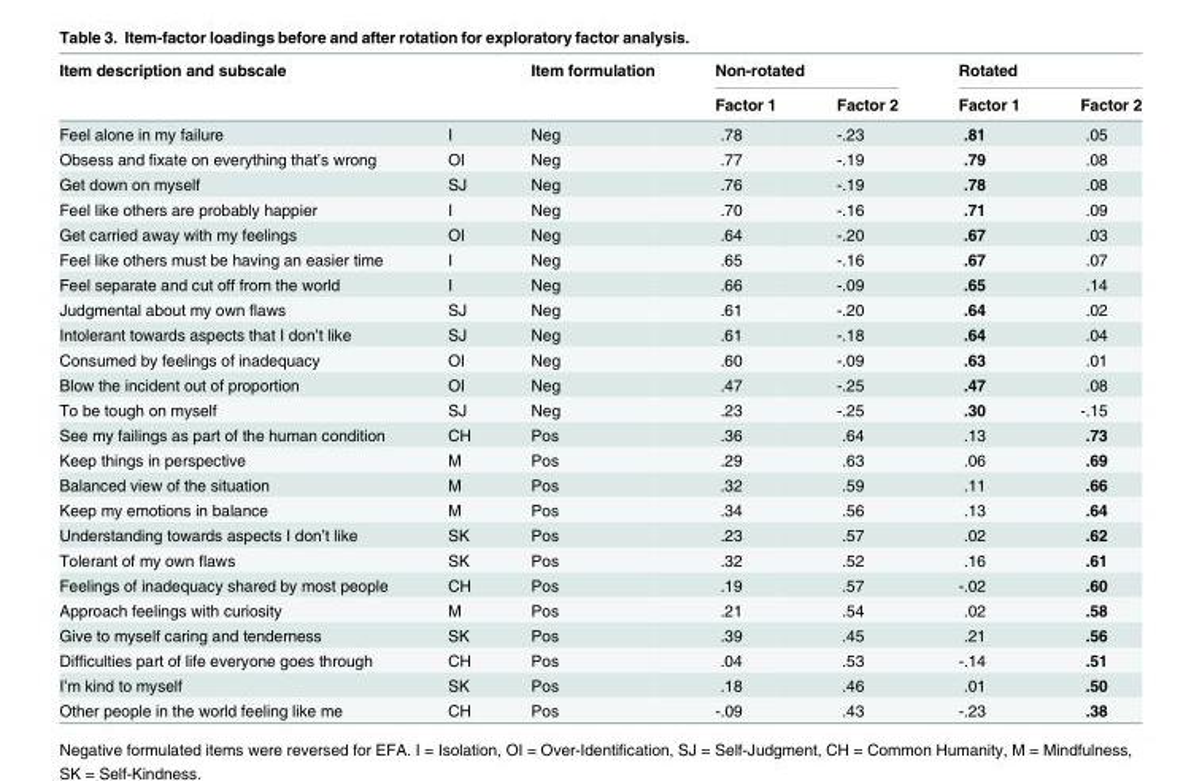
<table><thead><tr><td rowspan="2" colspan="2">Item description and subscale</td><td rowspan="3">Item formulation Neg</td><td colspan="2">Non-rotated</td><td colspan="2">Rotated</td></tr><tr><td rowspan="2">Factor 1 .78</td><td rowspan="2">Factor 2 -.23</td><td rowspan="2">Factor 1 .81</td><td rowspan="2">Factor 2 .05</td></tr><tr><td>Feel alone in my failure</td><td>I</td></tr></thead><tbody><tr><td>Obsess and fixate on everything that’s wrong</td><td>OI</td><td>Neg</td><td>.77</td><td>-.19</td><td>.79</td><td>.08</td></tr><tr><td>Get down on myself</td><td>SJ</td><td>Neg</td><td>.76</td><td>-.19</td><td>.78</td><td>.08</td></tr><tr><td>Feel like others are probably happier</td><td>I</td><td>Neg</td><td>.70</td><td>-.16</td><td>.71</td><td>.09</td></tr><tr><td>Get carried away with my feelings</td><td>OI</td><td>Neg</td><td>.64</td><td>-.20</td><td>.67</td><td>.03</td></tr><tr><td>Feel like others must be having an easier time</td><td>I</td><td>Neg</td><td>.65</td><td>-.16</td><td>.67</td><td>.07</td></tr><tr><td>Feel separate and cut off from the world</td><td>I</td><td>Neg</td><td>.66</td><td>-.09</td><td>.65</td><td>.14</td></tr><tr><td>Judgmental about my own flaws</td><td>SJ</td><td>Neg</td><td>.61</td><td>-.20</td><td>.64</td><td>.02</td></tr><tr><td>Intolerant towards aspects that I don’t like</td><td>SJ</td><td>Neg</td><td>.61</td><td>-.18</td><td>.64</td><td>.04</td></tr><tr><td>Consumed by feelings of inadequacy</td><td>OI</td><td>Neg</td><td>.60</td><td>-.09</td><td>.63</td><td>.01</td></tr><tr><td>Blow the incident out of proportion</td><td>OI</td><td>Neg</td><td>.47</td><td>-.25</td><td>.47</td><td>.08</td></tr><tr><td>To be tough on myself</td><td>SJ</td><td>Neg</td><td>.23</td><td>-.25</td><td>.30</td><td>-.15</td></tr><tr><td>See my failings as part of the human condition</td><td>CH</td><td>Pos</td><td>.36</td><td>.64</td><td>.13</td><td>.73</td></tr><tr><td>Keep things in perspective</td><td>M</td><td>Pos</td><td>.29</td><td>.63</td><td>.06</td><td>.69</td></tr><tr><td>Balanced view of the situation</td><td>M</td><td>Pos</td><td>.32</td><td>.59</td><td>.11</td><td>.66</td></tr><tr><td>Keep my emotions in balance</td><td>M</td><td>Pos</td><td>.34</td><td>.56</td><td>.13</td><td>.64</td></tr><tr><td>Understanding towards aspects I don’t like</td><td>SK</td><td>Pos</td><td>.23</td><td>.57</td><td>.02</td><td>.62</td></tr><tr><td>Tolerant of my own flaws</td><td>SK</td><td>Pos</td><td>.32</td><td>.52</td><td>.16</td><td>.61</td></tr><tr><td>Feelings of inadequacy shared by most people</td><td>CH</td><td>Pos</td><td>.19</td><td>.57</td><td>-.02</td><td>.60</td></tr><tr><td>Approach feelings with curiosity</td><td>M</td><td>Pos</td><td>.21</td><td>.54</td><td>.02</td><td>.58</td></tr><tr><td>Give to myself caring and tenderness</td><td>SK</td><td>Pos</td><td>.39</td><td>.45</td><td>.21</td><td>.56</td></tr><tr><td>Difficulties part of life everyone goes through</td><td>CH</td><td>Pos</td><td>.04</td><td>.53</td><td>-.14</td><td>.51</td></tr><tr><td>I’m kind to myself</td><td>SK</td><td>Pos</td><td>.18</td><td>.46</td><td>.01</td><td>.50</td></tr><tr><td>Other people in the world feeling like me</td><td>CH</td><td>Pos</td><td>-.09</td><td>.43</td><td>-.23</td><td>.38</td></tr></tbody></table>